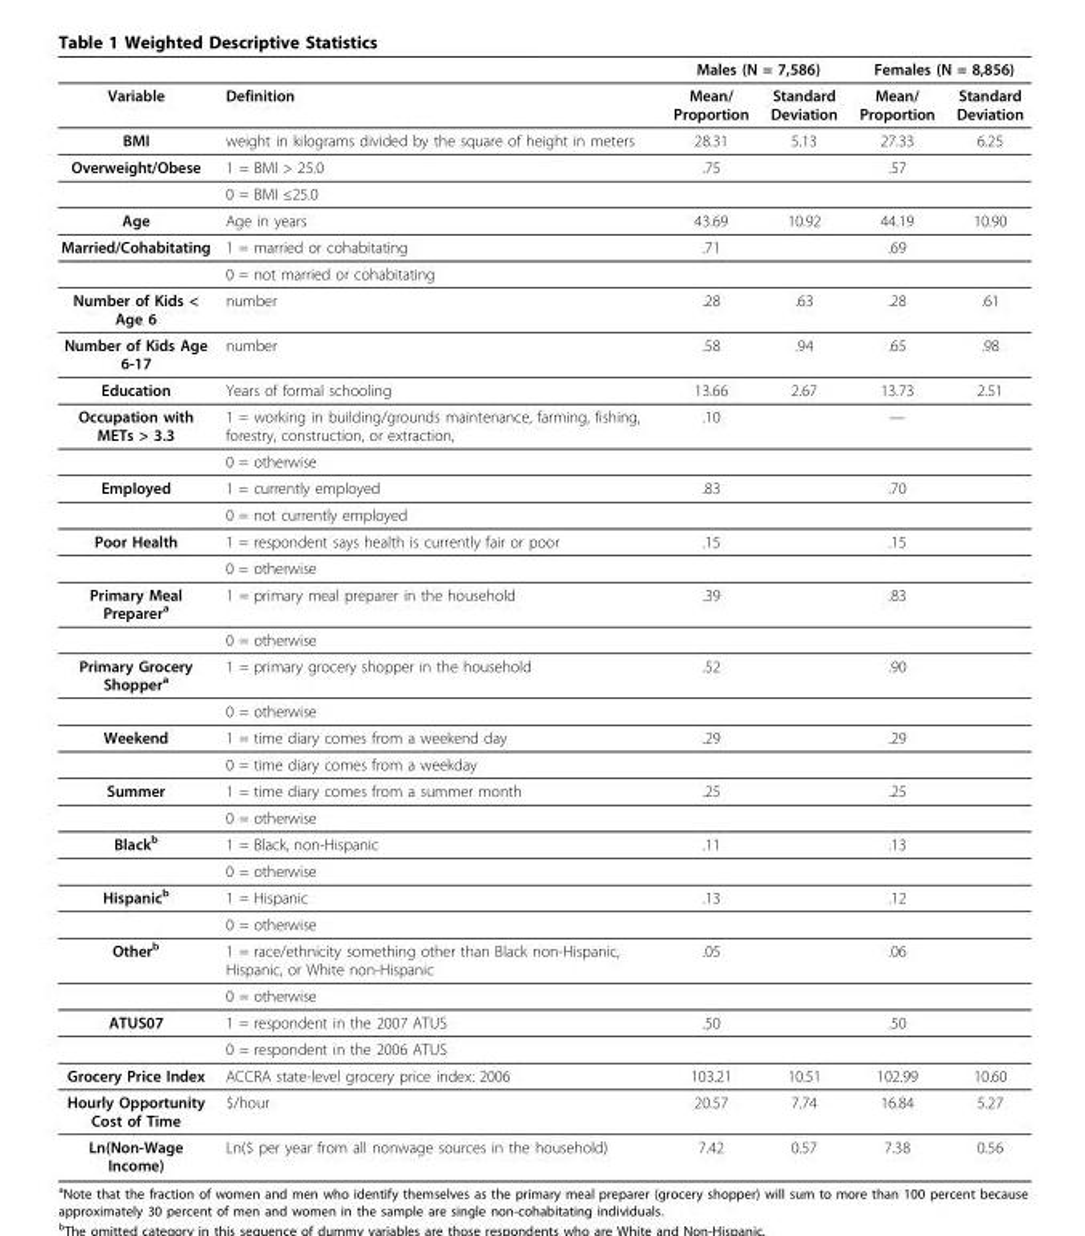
<table><thead><tr><td rowspan="2">Variable</td><td rowspan="2">Definition</td><td colspan="2">Males (N = 7,586)</td><td colspan="2">Females (N = 8,856)</td></tr><tr><td>Mean/ Proportion</td><td>Standard Deviation</td><td>Mean/ Proportion</td><td>Standard Deviation</td></tr></thead><tbody><tr><td>BMI</td><td>weight in kilograms divided by the square of height in meters</td><td>28.31</td><td>5.13</td><td>27.33</td><td>6.25</td></tr><tr><td rowspan="2">Overweight/Obese</td><td>1 = BMI &gt; 25.0</td><td>.75</td><td></td><td>.57</td><td></td></tr><tr><td>0 = BMI ≤25.0</td><td></td><td></td><td></td><td></td></tr><tr><td>Age</td><td>Age in years</td><td>43.69</td><td>10.92</td><td>44.19</td><td>10.90</td></tr><tr><td rowspan="2">Married/Cohabitating</td><td>1 = married or cohabitating</td><td>.71</td><td></td><td>.69</td><td></td></tr><tr><td>0 = not married or cohabitating</td><td></td><td></td><td></td><td></td></tr><tr><td>Number of Kids &lt; Age 6</td><td>number</td><td>.28</td><td>.63</td><td>.28</td><td>.61</td></tr><tr><td>Number of Kids Age 6-17</td><td>number</td><td>.58</td><td>.94</td><td>.65</td><td>.98</td></tr><tr><td>Education</td><td>Years of formal schooling</td><td>13.66</td><td>2.67</td><td>13.73</td><td>2.51</td></tr><tr><td rowspan="2">Occupation with METs &gt; 3.3</td><td>1 = working in building/grounds maintenance, farming, fishing, forestry, construction, or extraction,</td><td>.10</td><td></td><td>—</td><td></td></tr><tr><td>0 = otherwise</td><td></td><td></td><td></td><td></td></tr><tr><td rowspan="2">Employed</td><td>1 = currently employed</td><td>.83</td><td></td><td>.70</td><td></td></tr><tr><td>0 = not currently employed</td><td></td><td></td><td></td><td></td></tr><tr><td rowspan="2">Poor Health</td><td>1 = respondent says health is currently fair or poor</td><td>.15</td><td></td><td>.15</td><td></td></tr><tr><td>0 = otherwise</td><td></td><td></td><td></td><td></td></tr><tr><td rowspan="2">Primary Meal Preparera</td><td>1 = primary meal preparer in the household</td><td>.39</td><td></td><td>.83</td><td></td></tr><tr><td>0 = otherwise</td><td></td><td></td><td></td><td></td></tr><tr><td rowspan="2">Primary Grocery Shoppera</td><td>1 = primary grocery shopper in the household</td><td>.52</td><td></td><td>.90</td><td></td></tr><tr><td>0 = otherwise</td><td></td><td></td><td></td><td></td></tr><tr><td rowspan="2">Weekend</td><td>1 = time diary comes from a weekend day</td><td>.29</td><td></td><td>.29</td><td></td></tr><tr><td>0 = time diary comes from a weekday</td><td></td><td></td><td></td><td></td></tr><tr><td rowspan="2">Summer</td><td>1 = time diary comes from a summer month</td><td>.25</td><td></td><td>.25</td><td></td></tr><tr><td>0 = otherwise</td><td></td><td></td><td></td><td></td></tr><tr><td rowspan="2">Blackb</td><td>1 = Black, non-Hispanic</td><td>.11</td><td></td><td>.13</td><td></td></tr><tr><td>0 = otherwise</td><td></td><td></td><td></td><td></td></tr><tr><td rowspan="2">Hispanicb</td><td>1 = Hispanic</td><td>.13</td><td></td><td>.12</td><td></td></tr><tr><td>0 = otherwise</td><td></td><td></td><td></td><td></td></tr><tr><td rowspan="2">Otherb</td><td>1 = race/ethnicity something other than Black non-Hispanic, Hispanic, or White non-Hispanic</td><td>.05</td><td></td><td>.06</td><td></td></tr><tr><td>0 = otherwise</td><td></td><td></td><td></td><td></td></tr><tr><td rowspan="2">ATUS07</td><td>1 = respondent in the 2007 ATUS</td><td>.50</td><td></td><td>.50</td><td></td></tr><tr><td>0 = respondent in the 2006 ATUS</td><td></td><td></td><td></td><td></td></tr><tr><td>Grocery Price Index</td><td>ACCRA state-level grocery price index: 2006</td><td>103.21</td><td>10.51</td><td>102.99</td><td>10.60</td></tr><tr><td>Hourly Opportunity Cost of Time</td><td>$/hour</td><td>20.57</td><td>7.74</td><td>16.84</td><td>5.27</td></tr><tr><td>Ln(Non-Wage Income)</td><td>Ln($ per year from all nonwage sources in the household)</td><td>7.42</td><td>0.57</td><td>7.38</td><td>0.56</td></tr></tbody></table>